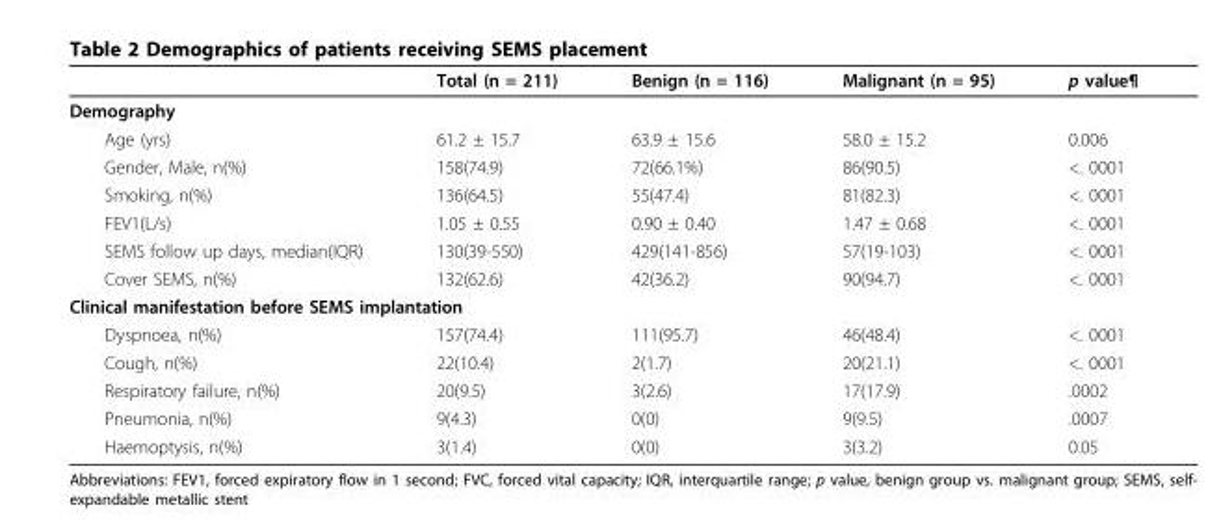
<table><thead><tr><td></td><td>Total (n = 211)</td><td>Benign (n = 116)</td><td>Malignant (n = 95)</td><td>p value¶</td></tr></thead><tbody><tr><td colspan="5">Demography</td></tr><tr><td>Age (yrs)</td><td>61.2 ± 15.7</td><td>63.9 ± 15.6</td><td>58.0 ± 15.2</td><td>0.006</td></tr><tr><td>Gender, Male, n(%)</td><td>158(74.9)</td><td>72(66.1%)</td><td>86(90.5)</td><td>&lt;. 0001</td></tr><tr><td>Smoking, n(%)</td><td>136(64.5)</td><td>55(47.4)</td><td>81(82.3)</td><td>&lt;. 0001</td></tr><tr><td>FEV1(L/s)</td><td>1.05 ± 0.55</td><td>0.90 ± 0.40</td><td>1.47 ± 0.68</td><td>&lt;. 0001</td></tr><tr><td>SEMS follow up days, median(IQR)</td><td>130(39-550)</td><td>429(141-856)</td><td>57(19-103)</td><td>&lt;. 0001</td></tr><tr><td>Cover SEMS, n(%)</td><td>132(62.6)</td><td>42(36.2)</td><td>90(94.7)</td><td>&lt;. 0001</td></tr><tr><td colspan="5">Clinical manifestation before SEMS implantation</td></tr><tr><td>Dyspnoea, n(%)</td><td>157(74.4)</td><td>111(95.7)</td><td>46(48.4)</td><td>&lt;. 0001</td></tr><tr><td>Cough, n(%)</td><td>22(10.4)</td><td>2(1.7)</td><td>20(21.1)</td><td>&lt;. 0001</td></tr><tr><td>Respiratory failure, n(%)</td><td>20(9.5)</td><td>3(2.6)</td><td>17(17.9)</td><td>.0002</td></tr><tr><td>Pneumonia, n(%)</td><td>9(4.3)</td><td>0(0)</td><td>9(9.5)</td><td>.0007</td></tr><tr><td>Haemoptysis, n(%)</td><td>3(1.4)</td><td>0(0)</td><td>3(3.2)</td><td>0.05</td></tr></tbody></table>